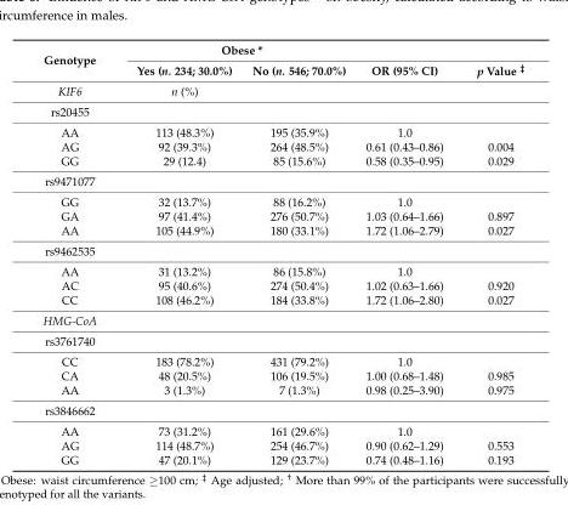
<table><thead><tr><td rowspan="2">Genotype</td><td colspan="2">Obese *</td><td rowspan="2">OR (95% CI)</td><td rowspan="2">p Value <sup>‡</sup></td></tr><tr><td>Yes (n. 234; 30.0%)</td><td>No (n. 546; 70.0%)</td></tr></thead><tbody><tr><td>KIF6</td><td>n (%)</td><td></td><td colspan="2"></td></tr><tr><td colspan="5">rs20455</td></tr><tr><td>AA</td><td>113 (48.3%)</td><td>195 (35.9%)</td><td>1.0</td><td></td></tr><tr><td>AG</td><td>92 (39.3%)</td><td>264 (48.5%)</td><td>0.61 (0.43–0.86)</td><td>0.004</td></tr><tr><td>GG</td><td>29 (12.4)</td><td>85 (15.6%)</td><td>0.58 (0.35–0.95)</td><td>0.029</td></tr><tr><td colspan="5">rs9471077</td></tr><tr><td>GG</td><td>32 (13.7%)</td><td>88 (16.2%)</td><td>1.0</td><td></td></tr><tr><td>GA</td><td>97 (41.4%)</td><td>276 (50.7%)</td><td>1.03 (0.64–1.66)</td><td>0.897</td></tr><tr><td>AA</td><td>105 (44.9%)</td><td>180 (33.1%)</td><td>1.72 (1.06–2.79)</td><td>0.027</td></tr><tr><td colspan="5">rs9462535</td></tr><tr><td>AA</td><td>31 (13.2%)</td><td>86 (15.8%)</td><td>1.0</td><td></td></tr><tr><td>AC</td><td>95 (40.6%)</td><td>274 (50.4%)</td><td>1.02 (0.63–1.66)</td><td>0.920</td></tr><tr><td>CC</td><td>108 (46.2%)</td><td>184 (33.8%)</td><td>1.72 (1.06–2.80)</td><td>0.027</td></tr><tr><td colspan="5">HMG-CoA</td></tr><tr><td colspan="5">rs3761740</td></tr><tr><td>CC</td><td>183 (78.2%)</td><td>431 (79.2%)</td><td>1.0</td><td></td></tr><tr><td>CA</td><td>48 (20.5%)</td><td>106 (19.5%)</td><td>1.00 (0.68–1.48)</td><td>0.985</td></tr><tr><td>AA</td><td>3 (1.3%)</td><td>7 (1.3%)</td><td>0.98 (0.25–3.90)</td><td>0.975</td></tr><tr><td colspan="5">rs3846662</td></tr><tr><td>AA</td><td>73 (31.2%)</td><td>161 (29.6%)</td><td>1.0</td><td></td></tr><tr><td>AG</td><td>114 (48.7%)</td><td>254 (46.7%)</td><td>0.90 (0.62–1.29)</td><td>0.553</td></tr><tr><td>GG</td><td>47 (20.1%)</td><td>129 (23.7%)</td><td>0.74 (0.48–1.16)</td><td>0.193</td></tr></tbody></table>